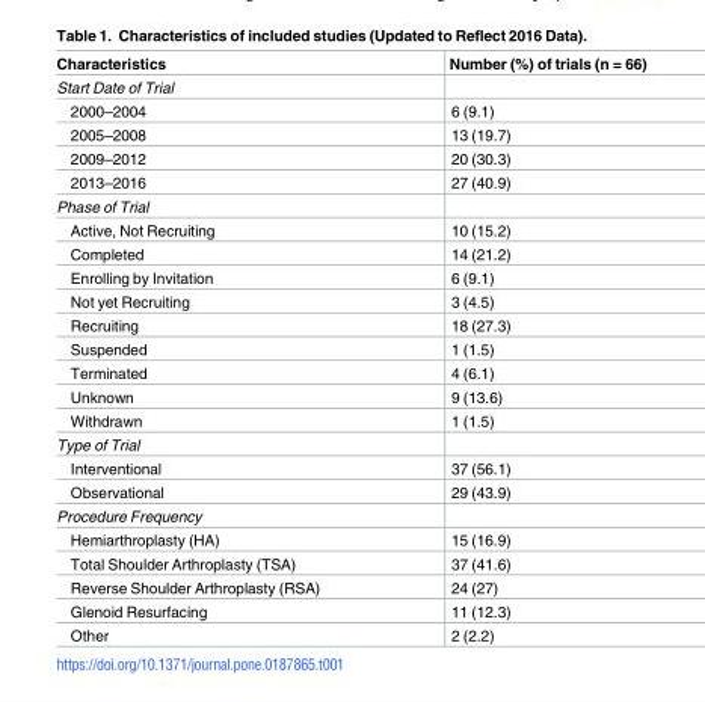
<table><thead><tr><td>Characteristics</td><td>Number (%) of trials (n = 66)</td></tr></thead><tbody><tr><td colspan="2">Start Date of Trial</td></tr><tr><td>2000–2004</td><td>6 (9.1)</td></tr><tr><td>2005–2008</td><td>13 (19.7)</td></tr><tr><td>2009–2012</td><td>20 (30.3)</td></tr><tr><td>2013–2016</td><td>27 (40.9)</td></tr><tr><td colspan="2">Phase of Trial</td></tr><tr><td>Active, Not Recruiting</td><td>10 (15.2)</td></tr><tr><td>Completed</td><td>14 (21.2)</td></tr><tr><td>Enrolling by Invitation</td><td>6 (9.1)</td></tr><tr><td>Not yet Recruiting</td><td>3 (4.5)</td></tr><tr><td>Recruiting</td><td>18 (27.3)</td></tr><tr><td>Suspended</td><td>1 (1.5)</td></tr><tr><td>Terminated</td><td>4 (6.1)</td></tr><tr><td>Unknown</td><td>9 (13.6)</td></tr><tr><td>Withdrawn</td><td>1 (1.5)</td></tr><tr><td colspan="2">Type of Trial</td></tr><tr><td>Interventional</td><td>37 (56.1)</td></tr><tr><td>Observational</td><td>29 (43.9)</td></tr><tr><td colspan="2">Procedure Frequency</td></tr><tr><td>Hemiarthroplasty (HA)</td><td>15 (16.9)</td></tr><tr><td>Total Shoulder Arthroplasty (TSA)</td><td>37 (41.6)</td></tr><tr><td>Reverse Shoulder Arthroplasty (RSA)</td><td>24 (27)</td></tr><tr><td>Glenoid Resurfacing</td><td>11 (12.3)</td></tr><tr><td>Other</td><td>2 (2.2)</td></tr></tbody></table>